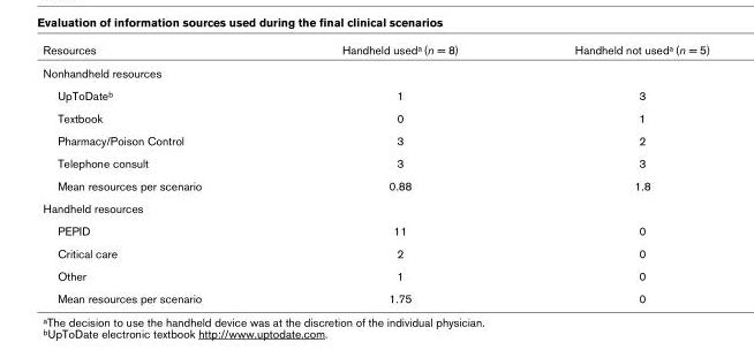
<table><thead><tr><td>Resources</td><td>Handheld useda (n = 8)</td><td>Handheld not useda (n = 5)</td></tr></thead><tbody><tr><td colspan="3">Nonhandheld resources</td></tr><tr><td>UpToDateb</td><td>1</td><td>3</td></tr><tr><td>Textbook</td><td>0</td><td>1</td></tr><tr><td>Pharmacy/Poison Control</td><td>3</td><td>2</td></tr><tr><td>Telephone consult</td><td>3</td><td>3</td></tr><tr><td>Mean resources per scenario</td><td>0.88</td><td>1.8</td></tr><tr><td colspan="3">Handheld resources</td></tr><tr><td>PEPID</td><td>11</td><td>0</td></tr><tr><td>Critical care</td><td>2</td><td>0</td></tr><tr><td>Other</td><td>1</td><td>0</td></tr><tr><td>Mean resources per scenario</td><td>1.75</td><td>0</td></tr></tbody></table>